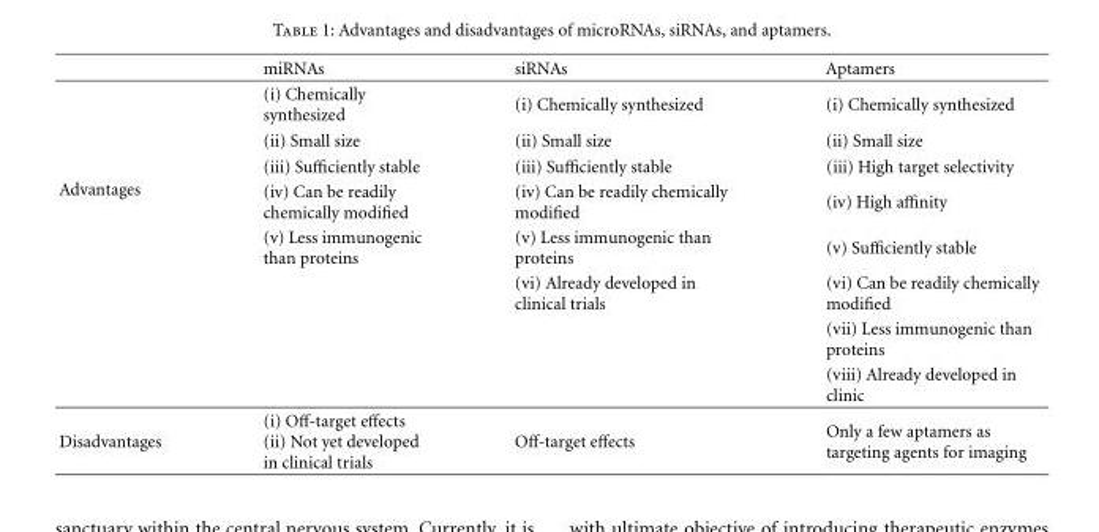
<table><thead><tr><td></td><td>miRNAs</td><td>siRNAs</td><td>Aptamers</td></tr></thead><tbody><tr><td rowspan="8">Advantages</td><td>(i) Chemically synthesized</td><td>(i) Chemically synthesized</td><td>(i) Chemically synthesized</td></tr><tr><td>(ii) Small size</td><td>(ii) Small size</td><td>(ii) Small size</td></tr><tr><td>(iii) Sufficiently stable</td><td>(iii) Sufficiently stable</td><td>(iii) High target selectivity</td></tr><tr><td>(iv) Can be readily chemically modified</td><td>(iv) Can be readily chemically modified</td><td>(iv) High affinity</td></tr><tr><td>(v) Less immunogenic than proteins</td><td>(v) Less immunogenic than proteins</td><td>(v) Sufficiently stable</td></tr><tr><td></td><td>(vi) Already developed in clinical trials</td><td>(vi) Can be readily chemically modified</td></tr><tr><td></td><td></td><td>(vii) Less immunogenic than proteins</td></tr><tr><td></td><td></td><td>(viii) Already developed in clinic</td></tr><tr><td>Disadvantages</td><td>(i) Off-target effects (ii) Not yet developed in clinical trials</td><td>Off-target effects</td><td>Only a few aptamers as targeting agents for imaging</td></tr></tbody></table>